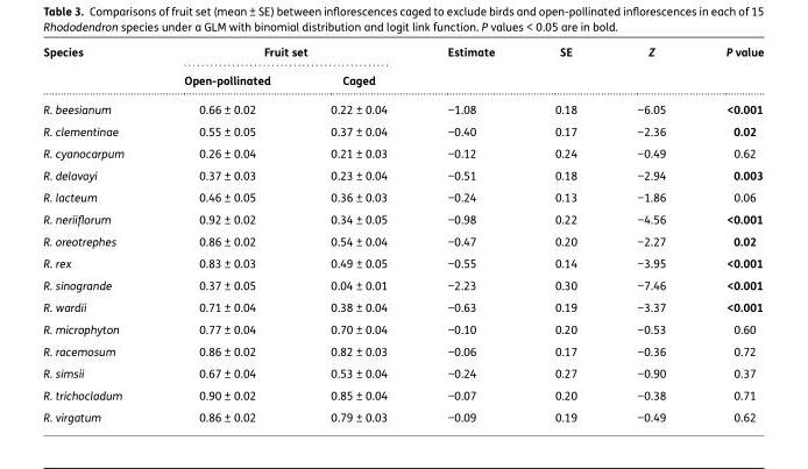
<table><thead><tr><td rowspan="2">Species</td><td colspan="2">Fruit set</td><td rowspan="2">Estimate</td><td rowspan="2">SE</td><td rowspan="2">Z</td><td rowspan="2">P value</td></tr><tr><td>Open-pollinated</td><td>Caged</td></tr></thead><tbody><tr><td>R. beesianum</td><td>0.66 ± 0.02</td><td>0.22 ± 0.04</td><td>−1.08</td><td>0.18</td><td>−6.05</td><td>&lt;0.001</td></tr><tr><td>R. clementinae</td><td>0.55 ± 0.05</td><td>0.37 ± 0.04</td><td>−0.40</td><td>0.17</td><td>−2.36</td><td>0.02</td></tr><tr><td>R. cyanocarpum</td><td>0.26 ± 0.04</td><td>0.21 ± 0.03</td><td>−0.12</td><td>0.24</td><td>−0.49</td><td>0.62</td></tr><tr><td>R. delavayi</td><td>0.37 ± 0.03</td><td>0.23 ± 0.04</td><td>−0.51</td><td>0.18</td><td>−2.94</td><td>0.003</td></tr><tr><td>R. lacteum</td><td>0.46 ± 0.05</td><td>0.36 ± 0.03</td><td>−0.24</td><td>0.13</td><td>−1.86</td><td>0.06</td></tr><tr><td>R. neriiflorum</td><td>0.92 ± 0.02</td><td>0.34 ± 0.05</td><td>−0.98</td><td>0.22</td><td>−4.56</td><td>&lt;0.001</td></tr><tr><td>R. oreotrephes</td><td>0.86 ± 0.02</td><td>0.54 ± 0.04</td><td>−0.47</td><td>0.20</td><td>−2.27</td><td>0.02</td></tr><tr><td>R. rex</td><td>0.83 ± 0.03</td><td>0.49 ± 0.05</td><td>−0.55</td><td>0.14</td><td>−3.95</td><td>&lt;0.001</td></tr><tr><td>R. sinogrande</td><td>0.37 ± 0.05</td><td>0.04 ± 0.01</td><td>−2.23</td><td>0.30</td><td>−7.46</td><td>&lt;0.001</td></tr><tr><td>R. wardii</td><td>0.71 ± 0.04</td><td>0.38 ± 0.04</td><td>−0.63</td><td>0.19</td><td>−3.37</td><td>&lt;0.001</td></tr><tr><td>R. microphyton</td><td>0.77 ± 0.04</td><td>0.70 ± 0.04</td><td>−0.10</td><td>0.20</td><td>−0.53</td><td>0.60</td></tr><tr><td>R. racemosum</td><td>0.86 ± 0.02</td><td>0.82 ± 0.03</td><td>−0.06</td><td>0.17</td><td>−0.36</td><td>0.72</td></tr><tr><td>R. simsii</td><td>0.67 ± 0.04</td><td>0.53 ± 0.04</td><td>−0.24</td><td>0.27</td><td>−0.90</td><td>0.37</td></tr><tr><td>R. trichocladum</td><td>0.90 ± 0.02</td><td>0.85 ± 0.04</td><td>−0.07</td><td>0.20</td><td>−0.38</td><td>0.71</td></tr><tr><td>R. virgatum</td><td>0.86 ± 0.02</td><td>0.79 ± 0.03</td><td>−0.09</td><td>0.19</td><td>−0.49</td><td>0.62</td></tr></tbody></table>